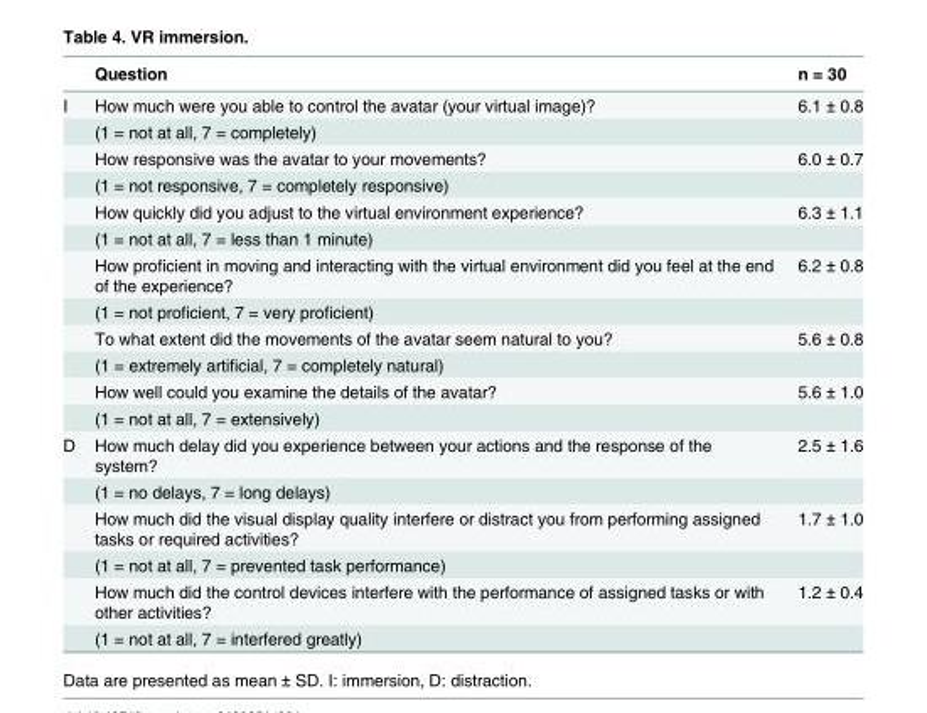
<table><thead><tr><td></td><td>Question</td><td>n = 30</td></tr></thead><tbody><tr><td rowspan="12">I</td><td>How much were you able to control the avatar (your virtual image)?</td><td>6.1 ± 0.8</td></tr><tr><td>(1 = not at all, 7 = completely)</td><td></td></tr><tr><td>How responsive was the avatar to your movements?</td><td>6.0 ± 0.7</td></tr><tr><td>(1 = not responsive, 7 = completely responsive)</td><td></td></tr><tr><td>How quickly did you adjust to the virtual environment experience?</td><td>6.3 ± 1.1</td></tr><tr><td>(1 = not at all, 7 = less than 1 minute)</td><td></td></tr><tr><td>How proficient in moving and interacting with the virtual environment did you feel at the end of the experience?</td><td>6.2 ± 0.8</td></tr><tr><td>(1 = not proficient, 7 = very proficient)</td><td></td></tr><tr><td>To what extent did the movements of the avatar seem natural to you?</td><td>5.6 ± 0.8</td></tr><tr><td>(1 = extremely artificial, 7 = completely natural)</td><td></td></tr><tr><td>How well could you examine the details of the avatar?</td><td>5.6 ± 1.0</td></tr><tr><td>(1 = not at all, 7 = extensively)</td><td></td></tr><tr><td rowspan="6">D</td><td>How much delay did you experience between your actions and the response of the system?</td><td>2.5 ± 1.6</td></tr><tr><td>(1 = no delays, 7 = long delays)</td><td></td></tr><tr><td>How much did the visual display quality interfere or distract you from performing assigned tasks or required activities?</td><td>1.7 ± 1.0</td></tr><tr><td>(1 = not at all, 7 = prevented task performance)</td><td></td></tr><tr><td>How much did the control devices interfere with the performance of assigned tasks or with other activities?</td><td>1.2 ± 0.4</td></tr><tr><td>(1 = not at all, 7 = interfered greatly)</td><td></td></tr></tbody></table>